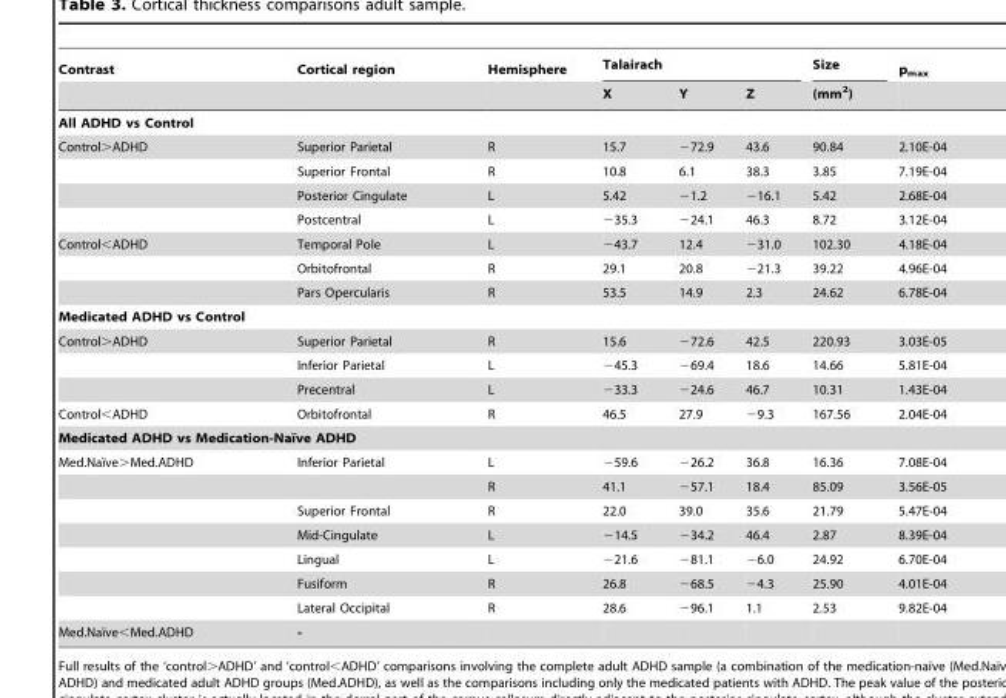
<table><thead><tr><td rowspan="2">Contrast</td><td rowspan="2">Cortical region</td><td rowspan="2">Hemisphere</td><td colspan="3">Talairach</td><td rowspan="2">Size (mm<sup>2</sup>)</td><td rowspan="2">p<sub>max</sub></td></tr><tr><td>X</td><td>Y</td><td>Z</td></tr></thead><tbody><tr><td colspan="8">All ADHD vs Control</td></tr><tr><td rowspan="4">Control&gt;ADHD</td><td>Superior Parietal</td><td>R</td><td>15.7</td><td>−72.9</td><td>43.6</td><td>90.84</td><td>2.10E-04</td></tr><tr><td>Superior Frontal</td><td>R</td><td>10.8</td><td>6.1</td><td>38.3</td><td>3.85</td><td>7.19E-04</td></tr><tr><td>Posterior Cingulate</td><td>L</td><td>5.42</td><td>−1.2</td><td>−16.1</td><td>5.42</td><td>2.68E-04</td></tr><tr><td>Postcentral</td><td>L</td><td>−35.3</td><td>−24.1</td><td>46.3</td><td>8.72</td><td>3.12E-04</td></tr><tr><td rowspan="3">Control&lt;ADHD</td><td>Temporal Pole</td><td>L</td><td>−43.7</td><td>12.4</td><td>−31.0</td><td>102.30</td><td>4.18E-04</td></tr><tr><td>Orbitofrontal</td><td>R</td><td>29.1</td><td>20.8</td><td>−21.3</td><td>39.22</td><td>4.96E-04</td></tr><tr><td>Pars Opercularis</td><td>R</td><td>53.5</td><td>14.9</td><td>2.3</td><td>24.62</td><td>6.78E-04</td></tr><tr><td colspan="8">Medicated ADHD vs Control</td></tr><tr><td rowspan="3">Control&gt;ADHD</td><td>Superior Parietal</td><td>R</td><td>15.6</td><td>−72.6</td><td>42.5</td><td>220.93</td><td>3.03E-05</td></tr><tr><td>Inferior Parietal</td><td>L</td><td>−45.3</td><td>−69.4</td><td>18.6</td><td>14.66</td><td>5.81E-04</td></tr><tr><td>Precentral</td><td>L</td><td>−33.3</td><td>−24.6</td><td>46.7</td><td>10.31</td><td>1.43E-04</td></tr><tr><td>Control&lt;ADHD</td><td>Orbitofrontal</td><td>R</td><td>46.5</td><td>27.9</td><td>−9.3</td><td>167.56</td><td>2.04E-04</td></tr><tr><td colspan="8">Medicated ADHD vs Medication-Naı¨ve ADHD</td></tr><tr><td rowspan="7">Med.Naı¨ve.Med.ADHD</td><td>Inferior Parietal</td><td>L</td><td>−59.6</td><td>−26.2</td><td>36.8</td><td>16.36</td><td>7.08E-04</td></tr><tr><td></td><td>R</td><td>41.1</td><td>−57.1</td><td>18.4</td><td>85.09</td><td>3.56E-05</td></tr><tr><td>Superior Frontal</td><td>R</td><td>22.0</td><td>39.0</td><td>35.6</td><td>21.79</td><td>5.47E-04</td></tr><tr><td>Mid-Cingulate</td><td>L</td><td>−14.5</td><td>−34.2</td><td>46.4</td><td>2.87</td><td>8.39E-04</td></tr><tr><td>Lingual</td><td>L</td><td>−21.6</td><td>−81.1</td><td>−6.0</td><td>24.92</td><td>6.70E-04</td></tr><tr><td>Fusiform</td><td>R</td><td>26.8</td><td>−68.5</td><td>−4.3</td><td>25.90</td><td>4.01E-04</td></tr><tr><td>Lateral Occipital</td><td>R</td><td>28.6</td><td>−96.1</td><td>1.1</td><td>2.53</td><td>9.82E-04</td></tr><tr><td>Med.Naı¨ve,Med.ADHD</td><td>-</td><td></td><td></td><td></td><td></td><td></td><td></td></tr></tbody></table>